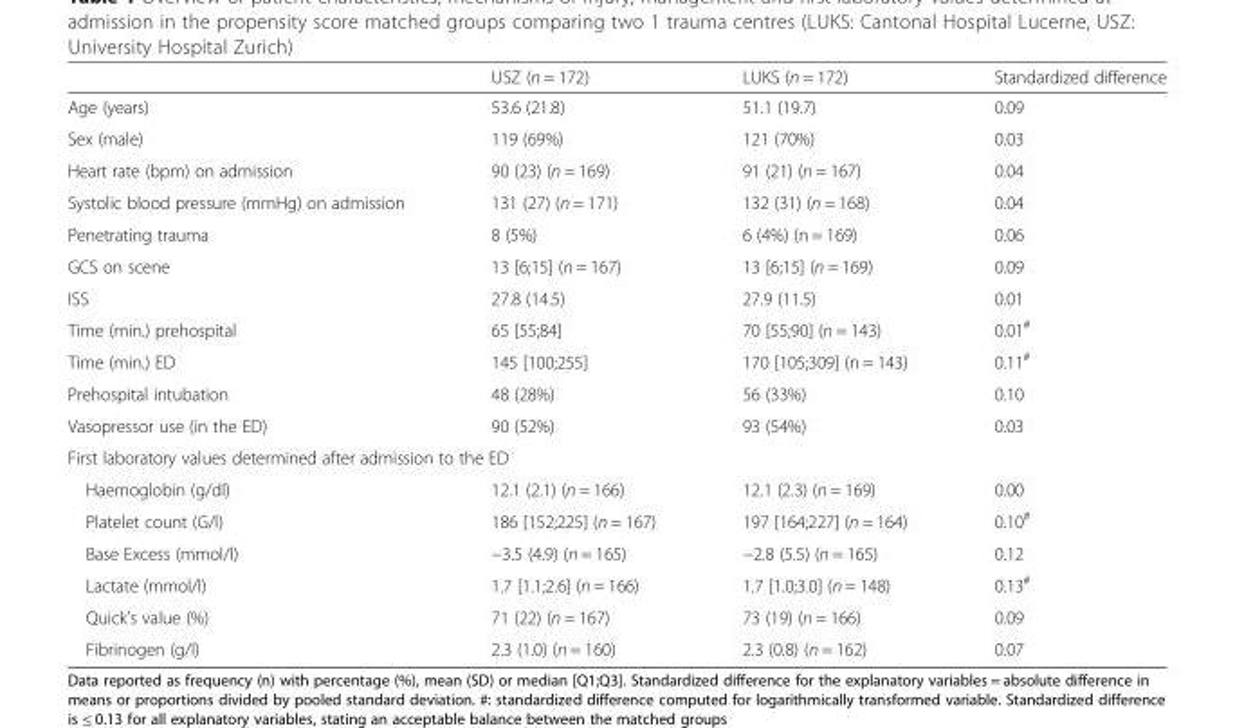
<table><thead><tr><td></td><td>USZ (n = 172)</td><td>LUKS (n = 172)</td><td>Standardized difference</td></tr></thead><tbody><tr><td>Age (years)</td><td>53.6 (21.8)</td><td>51.1 (19.7)</td><td>0.09</td></tr><tr><td>Sex (male)</td><td>119 (69%)</td><td>121 (70%)</td><td>0.03</td></tr><tr><td>Heart rate (bpm) on admission</td><td>90 (23) (n = 169)</td><td>91 (21) (n = 167)</td><td>0.04</td></tr><tr><td>Systolic blood pressure (mmHg) on admission</td><td>131 (27) (n = 171)</td><td>132 (31) (n = 168)</td><td>0.04</td></tr><tr><td>Penetrating trauma</td><td>8 (5%)</td><td>6 (4%) (n = 169)</td><td>0.06</td></tr><tr><td>GCS on scene</td><td>13 [6;15] (n = 167)</td><td>13 [6;15] (n = 169)</td><td>0.09</td></tr><tr><td>ISS</td><td>27.8 (14.5)</td><td>27.9 (11.5)</td><td>0.01</td></tr><tr><td>Time (min.) prehospital</td><td>65 [55;84]</td><td>70 [55;90] (n = 143)</td><td>0.01<sup>#</sup></td></tr><tr><td>Time (min.) ED</td><td>145 [100;255]</td><td>170 [105;309] (n = 143)</td><td>0.11<sup>#</sup></td></tr><tr><td>Prehospital intubation</td><td>48 (28%)</td><td>56 (33%)</td><td>0.10</td></tr><tr><td>Vasopressor use (in the ED)</td><td>90 (52%)</td><td>93 (54%)</td><td>0.03</td></tr><tr><td colspan="4">First laboratory values determined after admission to the ED</td></tr><tr><td>Haemoglobin (g/dl)</td><td>12.1 (2.1) (n = 166)</td><td>12.1 (2.3) (n = 169)</td><td>0.00</td></tr><tr><td>Platelet count (G/l)</td><td>186 [152;225] (n = 167)</td><td>197 [164;227] (n = 164)</td><td>0.10<sup>#</sup></td></tr><tr><td>Base Excess (mmol/l)</td><td>−3.5 (4.9) (n = 165)</td><td>−2.8 (5.5) (n = 165)</td><td>0.12</td></tr><tr><td>Lactate (mmol/l)</td><td>1.7 [1.1;2.6] (n = 166)</td><td>1.7 [1.0;3.0] (n = 148)</td><td>0.13<sup>#</sup></td></tr><tr><td>Quick’s value (%)</td><td>71 (22) (n = 167)</td><td>73 (19) (n = 166)</td><td>0.09</td></tr><tr><td>Fibrinogen (g/l)</td><td>2.3 (1.0) (n = 160)</td><td>2.3 (0.8) (n = 162)</td><td>0.07</td></tr></tbody></table>